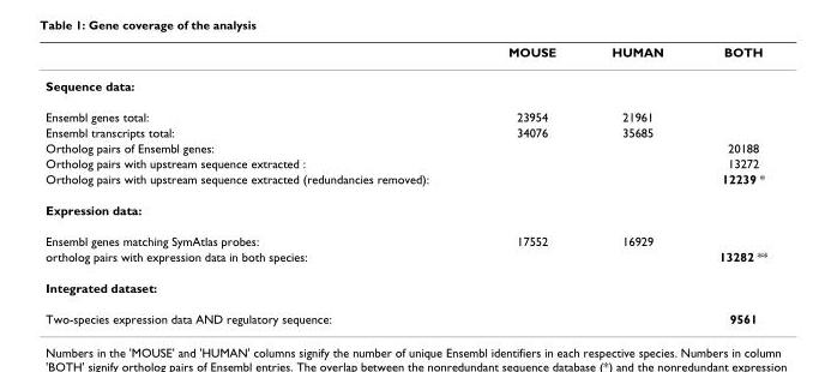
<table><thead><tr><td></td><td>MOUSE</td><td>HUMAN</td><td>BOTH</td></tr></thead><tbody><tr><td colspan="4">Sequence data:</td></tr><tr><td>Ensembl genes total:</td><td>23954</td><td>21961</td><td></td></tr><tr><td>Ensembl transcripts total:</td><td>34076</td><td>35685</td><td></td></tr><tr><td>Ortholog pairs of Ensembl genes:</td><td></td><td></td><td>20188</td></tr><tr><td>Ortholog pairs with upstream sequence extracted :</td><td></td><td></td><td>13272</td></tr><tr><td>Ortholog pairs with upstream sequence extracted (redundancies removed):</td><td></td><td></td><td>12239 *</td></tr><tr><td colspan="4">Expression data:</td></tr><tr><td>Ensembl genes matching SymAtlas probes:</td><td>17552</td><td>16929</td><td></td></tr><tr><td>ortholog pairs with expression data in both species:</td><td></td><td></td><td>13282 **</td></tr><tr><td colspan="4">Integrated dataset:</td></tr><tr><td>Two-species expression data AND regulatory sequence:</td><td></td><td></td><td>9561</td></tr></tbody></table>